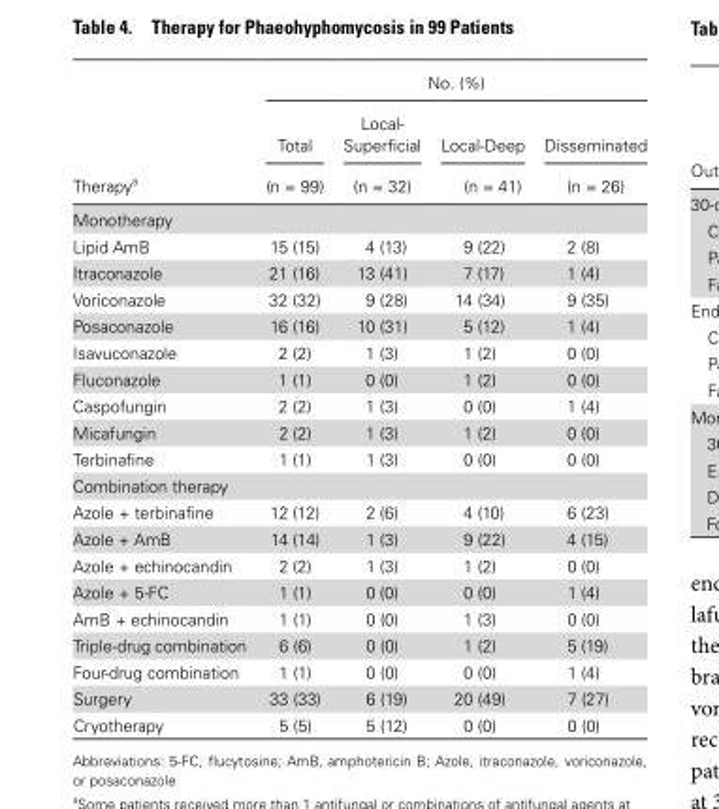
<table><thead><tr><td rowspan="3">Therapy<sup>a</sup></td><td colspan="4">No. (%)</td></tr><tr><td rowspan="2">Total (n = 99)</td><td rowspan="2">Local- Superficial (n = 32)</td><td rowspan="2">Local-Deep (n = 41)</td><td rowspan="2">Disseminated (n = 26)</td></tr><tr></tr></thead><tbody><tr><td colspan="5">Monotherapy</td></tr><tr><td>Lipid AmB</td><td>15 (15)</td><td>4 (13)</td><td>9 (22)</td><td>2 (8)</td></tr><tr><td>Itraconazole</td><td>21 (16)</td><td>13 (41)</td><td>7 (17)</td><td>1 (4)</td></tr><tr><td>Voriconazole</td><td>32 (32)</td><td>9 (28)</td><td>14 (34)</td><td>9 (35)</td></tr><tr><td>Posaconazole</td><td>16 (16)</td><td>10 (31)</td><td>5 (12)</td><td>1 (4)</td></tr><tr><td>Isavuconazole</td><td>2 (2)</td><td>1 (3)</td><td>1 (2)</td><td>0 (0)</td></tr><tr><td>Fluconazole</td><td>1 (1)</td><td>0 (0)</td><td>1 (2)</td><td>0 (0)</td></tr><tr><td>Caspofungin</td><td>2 (2)</td><td>1 (3)</td><td>0 (0)</td><td>1 (4)</td></tr><tr><td>Micafungin</td><td>2 (2)</td><td>1 (3)</td><td>1 (2)</td><td>0 (0)</td></tr><tr><td>Terbinafine</td><td>1 (1)</td><td>1 (3)</td><td>0 (0)</td><td>0 (0)</td></tr><tr><td colspan="5">Combination therapy</td></tr><tr><td>Azole + terbinafine</td><td>12 (12)</td><td>2 (6)</td><td>4 (10)</td><td>6 (23)</td></tr><tr><td>Azole + AmB</td><td>14 (14)</td><td>1 (3)</td><td>9 (22)</td><td>4 (15)</td></tr><tr><td>Azole + echinocandin</td><td>2 (2)</td><td>1 (3)</td><td>1 (2)</td><td>0 (0)</td></tr><tr><td>Azole + 5-FC</td><td>1 (1)</td><td>0 (0)</td><td>0 (0)</td><td>1 (4)</td></tr><tr><td>AmB + echinocandin</td><td>1 (1)</td><td>0 (0)</td><td>1 (3)</td><td>0 (0)</td></tr><tr><td>Triple-drug combination</td><td>6 (6)</td><td>0 (0)</td><td>1 (2)</td><td>5 (19)</td></tr><tr><td>Four-drug combination</td><td>1 (1)</td><td>0 (0)</td><td>0 (0)</td><td>1 (4)</td></tr><tr><td>Surgery</td><td>33 (33)</td><td>6 (19)</td><td>20 (49)</td><td>7 (27)</td></tr><tr><td>Cryotherapy</td><td>5 (5)</td><td>5 (12)</td><td>0 (0)</td><td>0 (0)</td></tr></tbody></table>